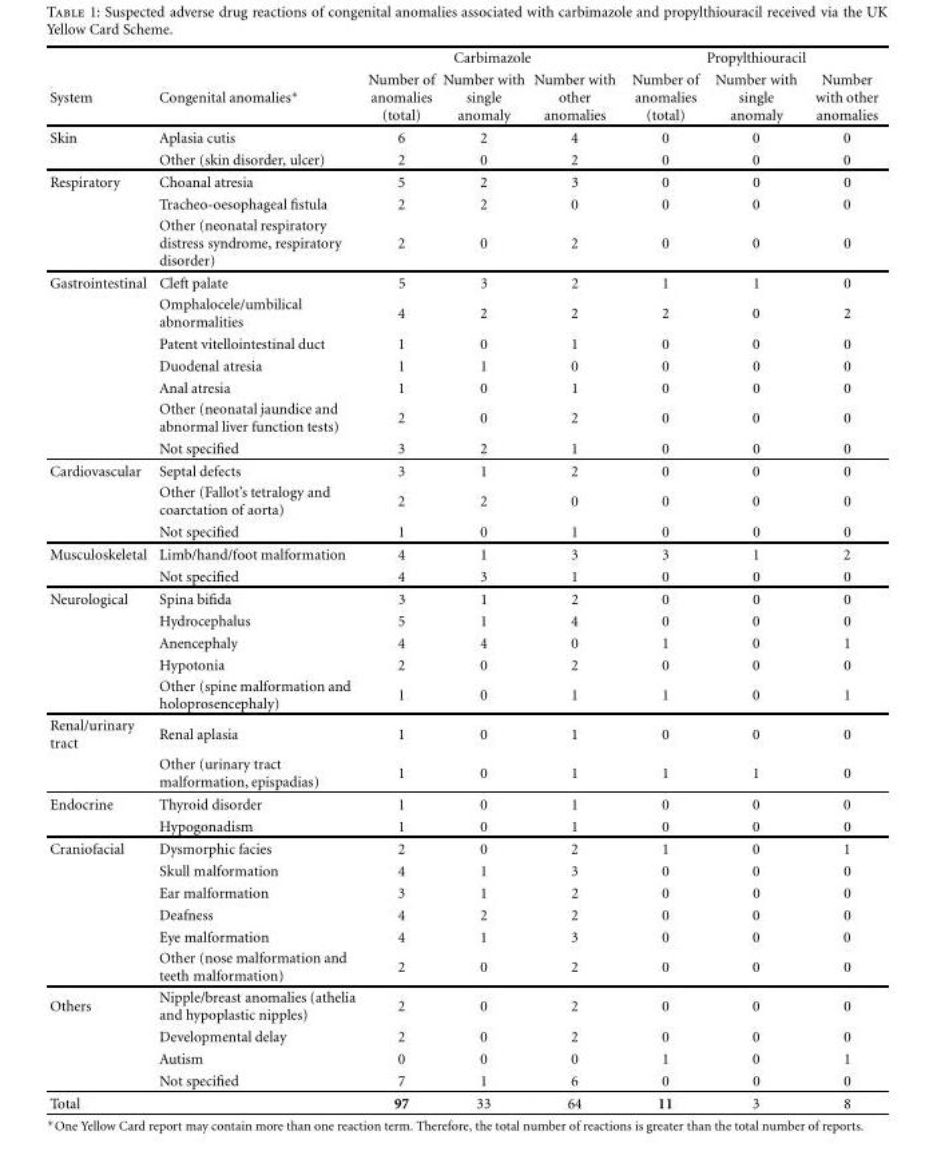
<table><thead><tr><td rowspan="2">System</td><td rowspan="2">Congenital anomalies∗</td><td colspan="3">Carbimazole</td><td colspan="3">Propylthiouracil</td></tr><tr><td>Number of anomalies (total)</td><td>Number with single anomaly</td><td>Number with other anomalies</td><td>Number of anomalies (total)</td><td>Number with single anomaly</td><td>Number with other anomalies</td></tr></thead><tbody><tr><td rowspan="2">Skin</td><td>Aplasia cutis</td><td>6</td><td>2</td><td>4</td><td>0</td><td>0</td><td>0</td></tr><tr><td>Other (skin disorder, ulcer)</td><td>2</td><td>0</td><td>2</td><td>0</td><td>0</td><td>0</td></tr><tr><td rowspan="3">Respiratory</td><td>Choanal atresia</td><td>5</td><td>2</td><td>3</td><td>0</td><td>0</td><td>0</td></tr><tr><td>Tracheo-oesophageal fistula</td><td>2</td><td>2</td><td>0</td><td>0</td><td>0</td><td>0</td></tr><tr><td>Other (neonatal respiratory distress syndrome, respiratory disorder)</td><td>2</td><td>0</td><td>2</td><td>0</td><td>0</td><td>0</td></tr><tr><td rowspan="7">Gastrointestinal</td><td>Cleft palate</td><td>5</td><td>3</td><td>2</td><td>1</td><td>1</td><td>0</td></tr><tr><td>Omphalocele/umbilical abnormalities</td><td>4</td><td>2</td><td>2</td><td>2</td><td>0</td><td>2</td></tr><tr><td>Patent vitellointestinal duct</td><td>1</td><td>0</td><td>1</td><td>0</td><td>0</td><td>0</td></tr><tr><td>Duodenal atresia</td><td>1</td><td>1</td><td>0</td><td>0</td><td>0</td><td>0</td></tr><tr><td>Anal atresia</td><td>1</td><td>0</td><td>1</td><td>0</td><td>0</td><td>0</td></tr><tr><td>Other (neonatal jaundice and abnormal liver function tests)</td><td>2</td><td>0</td><td>2</td><td>0</td><td>0</td><td>0</td></tr><tr><td>Not specified</td><td>3</td><td>2</td><td>1</td><td>0</td><td>0</td><td>0</td></tr><tr><td rowspan="3">Cardiovascular</td><td>Septal defects</td><td>3</td><td>1</td><td>2</td><td>0</td><td>0</td><td>0</td></tr><tr><td>Other (Fallot’s tetralogy and coarctation of aorta)</td><td>2</td><td>2</td><td>0</td><td>0</td><td>0</td><td>0</td></tr><tr><td>Not specified</td><td>1</td><td>0</td><td>1</td><td>0</td><td>0</td><td>0</td></tr><tr><td rowspan="2">Musculoskeletal</td><td>Limb/hand/foot malformation</td><td>4</td><td>1</td><td>3</td><td>3</td><td>1</td><td>2</td></tr><tr><td>Not specified</td><td>4</td><td>3</td><td>1</td><td>0</td><td>0</td><td>0</td></tr><tr><td rowspan="5">Neurological</td><td>Spina bifida</td><td>3</td><td>1</td><td>2</td><td>0</td><td>0</td><td>0</td></tr><tr><td>Hydrocephalus</td><td>5</td><td>1</td><td>4</td><td>0</td><td>0</td><td>0</td></tr><tr><td>Anencephaly</td><td>4</td><td>4</td><td>0</td><td>1</td><td>0</td><td>1</td></tr><tr><td>Hypotonia</td><td>2</td><td>0</td><td>2</td><td>0</td><td>0</td><td>0</td></tr><tr><td>Other (spine malformation and holoprosencephaly)</td><td>1</td><td>0</td><td>1</td><td>1</td><td>0</td><td>1</td></tr><tr><td rowspan="2">Renal/urinary tract</td><td>Renal aplasia</td><td>1</td><td>0</td><td>1</td><td>0</td><td>0</td><td>0</td></tr><tr><td>Other (urinary tract malformation, epispadias)</td><td>1</td><td>0</td><td>1</td><td>1</td><td>1</td><td>0</td></tr><tr><td rowspan="2">Endocrine</td><td>Thyroid disorder</td><td>1</td><td>0</td><td>1</td><td>0</td><td>0</td><td>0</td></tr><tr><td>Hypogonadism</td><td>1</td><td>0</td><td>1</td><td>0</td><td>0</td><td>0</td></tr><tr><td rowspan="6">Craniofacial</td><td>Dysmorphic facies</td><td>2</td><td>0</td><td>2</td><td>1</td><td>0</td><td>1</td></tr><tr><td>Skull malformation</td><td>4</td><td>1</td><td>3</td><td>0</td><td>0</td><td>0</td></tr><tr><td>Ear malformation</td><td>3</td><td>1</td><td>2</td><td>0</td><td>0</td><td>0</td></tr><tr><td>Deafness</td><td>4</td><td>2</td><td>2</td><td>0</td><td>0</td><td>0</td></tr><tr><td>Eye malformation</td><td>4</td><td>1</td><td>3</td><td>0</td><td>0</td><td>0</td></tr><tr><td>Other (nose malformation and teeth malformation)</td><td>2</td><td>0</td><td>2</td><td>0</td><td>0</td><td>0</td></tr><tr><td rowspan="4">Others</td><td>Nipple/breast anomalies (athelia and hypoplastic nipples)</td><td>2</td><td>0</td><td>2</td><td>0</td><td>0</td><td>0</td></tr><tr><td>Developmental delay</td><td>2</td><td>0</td><td>2</td><td>0</td><td>0</td><td>0</td></tr><tr><td>Autism</td><td>0</td><td>0</td><td>0</td><td>1</td><td>0</td><td>1</td></tr><tr><td>Not specified</td><td>7</td><td>1</td><td>6</td><td>0</td><td>0</td><td>0</td></tr><tr><td>Total</td><td></td><td>97</td><td>33</td><td>64</td><td>11</td><td>3</td><td>8</td></tr></tbody></table>